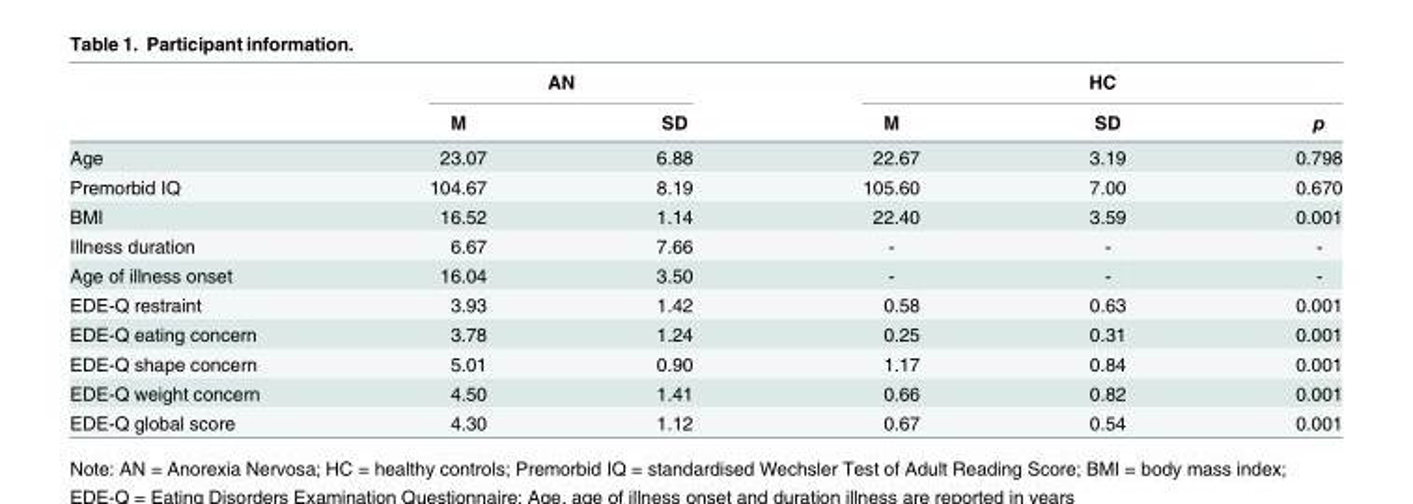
<table><thead><tr><td rowspan="2"></td><td colspan="2">AN</td><td colspan="3">HC</td></tr><tr><td>M</td><td>SD</td><td>M</td><td>SD</td><td>p</td></tr></thead><tbody><tr><td>Age</td><td>23.07</td><td>6.88</td><td>22.67</td><td>3.19</td><td>0.798</td></tr><tr><td>Premorbid IQ</td><td>104.67</td><td>8.19</td><td>105.60</td><td>7.00</td><td>0.670</td></tr><tr><td>BMI</td><td>16.52</td><td>1.14</td><td>22.40</td><td>3.59</td><td>0.001</td></tr><tr><td>Illness duration</td><td>6.67</td><td>7.66</td><td>-</td><td>-</td><td>-</td></tr><tr><td>Age of illness onset</td><td>16.04</td><td>3.50</td><td>-</td><td>-</td><td>-</td></tr><tr><td>EDE-Q restraint</td><td>3.93</td><td>1.42</td><td>0.58</td><td>0.63</td><td>0.001</td></tr><tr><td>EDE-Q eating concern</td><td>3.78</td><td>1.24</td><td>0.25</td><td>0.31</td><td>0.001</td></tr><tr><td>EDE-Q shape concern</td><td>5.01</td><td>0.90</td><td>1.17</td><td>0.84</td><td>0.001</td></tr><tr><td>EDE-Q weight concern</td><td>4.50</td><td>1.41</td><td>0.66</td><td>0.82</td><td>0.001</td></tr><tr><td>EDE-Q global score</td><td>4.30</td><td>1.12</td><td>0.67</td><td>0.54</td><td>0.001</td></tr></tbody></table>